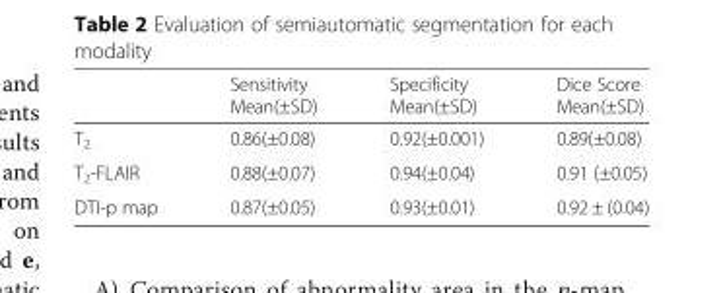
<table><thead><tr><td></td><td>Sensitivity Mean(±SD)</td><td>Specificity Mean(±SD)</td><td>Dice Score Mean(±SD)</td></tr></thead><tbody><tr><td>T<sub>2</sub></td><td>0.86(±0.08)</td><td>0.92(±0.001)</td><td>0.89(±0.08)</td></tr><tr><td>T<sub>2</sub>-FLAIR</td><td>0.88(±0.07)</td><td>0.94(±0.04)</td><td>0.91 (±0.05)</td></tr><tr><td>DTI-p map</td><td>0.87(±0.05)</td><td>0.93(±0.01)</td><td>0.92 ± (0.04)</td></tr></tbody></table>